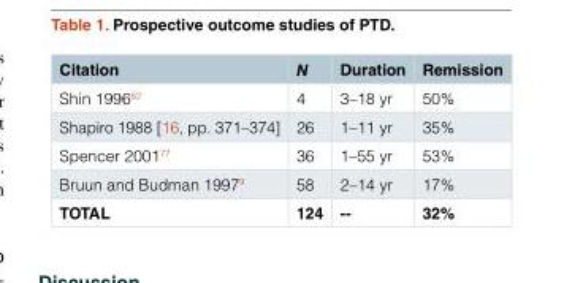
<table><thead><tr><td>Citation</td><td>N</td><td>Duration</td><td>Remission</td></tr></thead><tbody><tr><td>Shin 1996<sup>82</sup></td><td>4</td><td>3–18 yr</td><td>50%</td></tr><tr><td>Shapiro 1988 [16, pp. 371–374]</td><td>26</td><td>1–11 yr</td><td>35%</td></tr><tr><td>Spencer 2001<sup>77</sup></td><td>36</td><td>1–55 yr</td><td>53%</td></tr><tr><td>Bruun and Budman 1997<sup>9</sup></td><td>58</td><td>2–14 yr</td><td>17%</td></tr><tr><td>TOTAL</td><td>124</td><td>--</td><td>32%</td></tr></tbody></table>